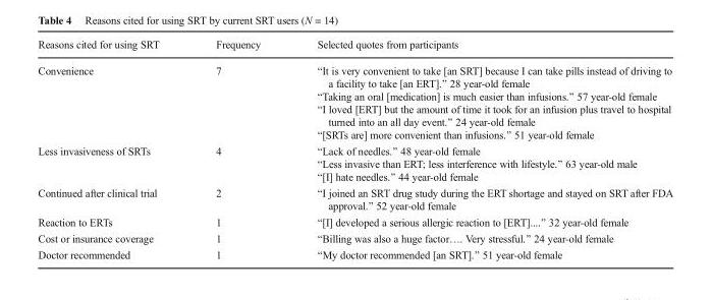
<table><thead><tr><td>Reasons cited for using SRT</td><td>Frequency</td><td>Selected quotes from participants</td></tr></thead><tbody><tr><td>Convenience</td><td>7</td><td>“It is very convenient to take [an SRT] because I can take pills instead of driving to a facility to take [an ERT].” 28 year-old female “Taking an oral [medication] is much easier than infusions.” 57 year-old female “I loved [ERT] but the amount of time it took for an infusion plus travel to hospital turned into an all day event.” 24 year-old female “[SRTs are] more convenient than infusions.” 51 year-old female</td></tr><tr><td>Less invasiveness of SRTs</td><td>4</td><td>“Lack of needles.” 48 year-old female “Less invasive than ERT; less interference with lifestyle.” 63 year-old male “[I] hate needles.” 44 year-old female</td></tr><tr><td>Continued after clinical trial</td><td>2</td><td>“I joined an SRT drug study during the ERT shortage and stayed on SRT after FDA approval.” 52 year-old female</td></tr><tr><td>Reaction to ERTs</td><td>1</td><td>“[I] developed a serious allergic reaction to [ERT]....” 32 year-old female</td></tr><tr><td>Cost or insurance coverage</td><td>1</td><td>“Billing was also a huge factor…. Very stressful.” 24 year-old female</td></tr><tr><td>Doctor recommended</td><td>1</td><td>“My doctor recommended [an SRT].” 51 year-old female</td></tr></tbody></table>